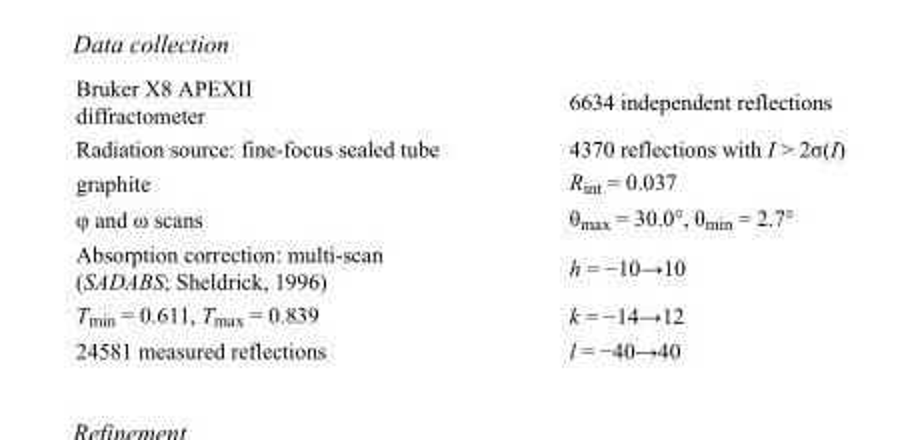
<table><tbody><tr><td>Bruker X8 APEXII diffractometer</td><td>6634 independent reflections</td></tr><tr><td>Radiation source: fine-focus sealed tube</td><td>4370 reflections with I &gt; 2σ(I)</td></tr><tr><td>graphite</td><td>R<sub>int</sub> = 0.037</td></tr><tr><td>φ and ω scans</td><td>θ<sub>max</sub> = 30.0°, θ<sub>min</sub> = 2.7°</td></tr><tr><td>Absorption correction: multi-scan (SADABS; Sheldrick, 1996)</td><td>h = −10→10</td></tr><tr><td>T<sub>min</sub> = 0.611, T<sub>max</sub> = 0.839</td><td>k = −14→12</td></tr><tr><td>24581 measured reflections</td><td>l = −40→40</td></tr></tbody></table>